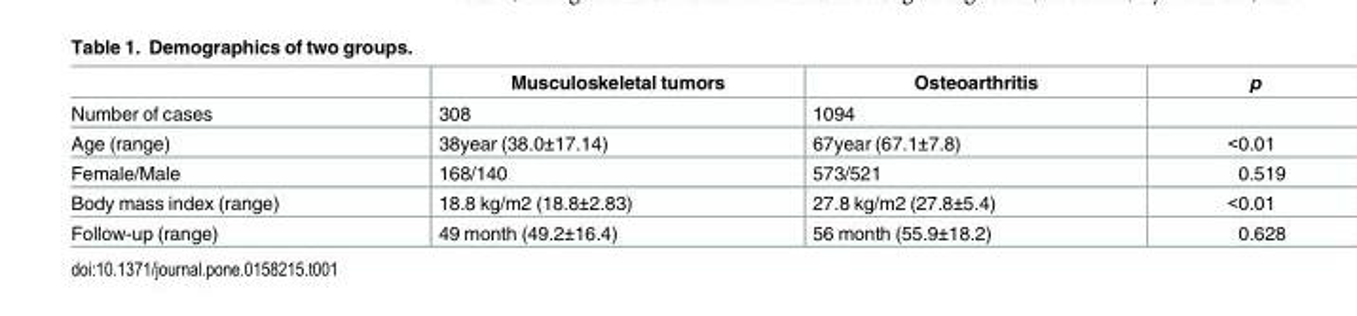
<table><thead><tr><td></td><td>Musculoskeletal tumors</td><td>Osteoarthritis</td><td>p</td></tr></thead><tbody><tr><td>Number of cases</td><td>308</td><td>1094</td><td></td></tr><tr><td>Age (range)</td><td>38year (38.0±17.14)</td><td>67year (67.1±7.8)</td><td>&lt;0.01</td></tr><tr><td>Female/Male</td><td>168/140</td><td>573/521</td><td>0.519</td></tr><tr><td>Body mass index (range)</td><td>18.8 kg/m2 (18.8±2.83)</td><td>27.8 kg/m2 (27.8±5.4)</td><td>&lt;0.01</td></tr><tr><td>Follow-up (range)</td><td>49 month (49.2±16.4)</td><td>56 month (55.9±18.2)</td><td>0.628</td></tr></tbody></table>